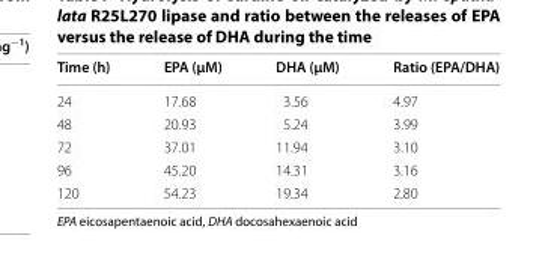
<table><thead><tr><td>Time (h)</td><td>EPA (µM)</td><td>DHA (µM)</td><td>Ratio (EPA/DHA)</td></tr></thead><tbody><tr><td>24</td><td>17.68</td><td>3.56</td><td>4.97</td></tr><tr><td>48</td><td>20.93</td><td>5.24</td><td>3.99</td></tr><tr><td>72</td><td>37.01</td><td>11.94</td><td>3.10</td></tr><tr><td>96</td><td>45.20</td><td>14.31</td><td>3.16</td></tr><tr><td>120</td><td>54.23</td><td>19.34</td><td>2.80</td></tr></tbody></table>